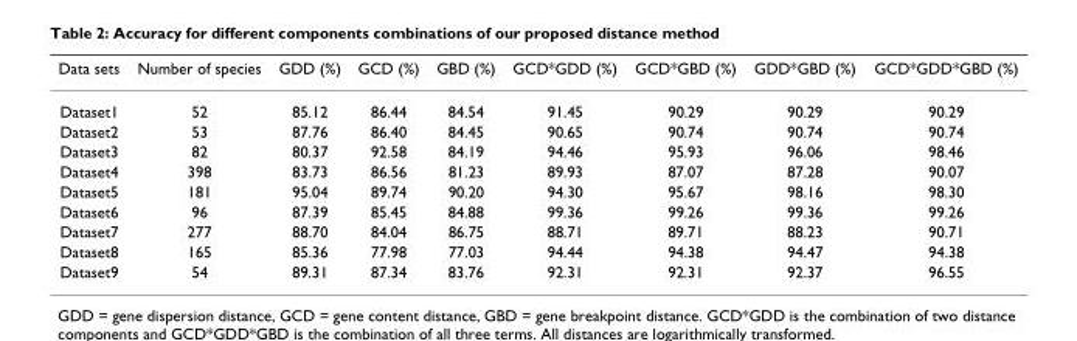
<table><thead><tr><td>Data sets</td><td>Number of species</td><td>GDD (%)</td><td>GCD (%)</td><td>GBD (%)</td><td>GCD*GDD (%)</td><td>GCD*GBD (%)</td><td>GDD*GBD (%)</td><td>GCD*GDD*GBD (%)</td></tr></thead><tbody><tr><td>Dataset1</td><td>52</td><td>85.12</td><td>86.44</td><td>84.54</td><td>91.45</td><td>90.29</td><td>90.29</td><td>90.29</td></tr><tr><td>Dataset2</td><td>53</td><td>87.76</td><td>86.40</td><td>84.45</td><td>90.65</td><td>90.74</td><td>90.74</td><td>90.74</td></tr><tr><td>Dataset3</td><td>82</td><td>80.37</td><td>92.58</td><td>84.19</td><td>94.46</td><td>95.93</td><td>96.06</td><td>98.46</td></tr><tr><td>Dataset4</td><td>398</td><td>83.73</td><td>86.56</td><td>81.23</td><td>89.93</td><td>87.07</td><td>87.28</td><td>90.07</td></tr><tr><td>Dataset5</td><td>181</td><td>95.04</td><td>89.74</td><td>90.20</td><td>94.30</td><td>95.67</td><td>98.16</td><td>98.30</td></tr><tr><td>Dataset6</td><td>96</td><td>87.39</td><td>85.45</td><td>84.88</td><td>99.36</td><td>99.26</td><td>99.36</td><td>99.26</td></tr><tr><td>Dataset7</td><td>277</td><td>88.70</td><td>84.04</td><td>86.75</td><td>88.71</td><td>89.71</td><td>88.23</td><td>90.71</td></tr><tr><td>Dataset8</td><td>165</td><td>85.36</td><td>77.98</td><td>77.03</td><td>94.44</td><td>94.38</td><td>94.47</td><td>94.38</td></tr><tr><td>Dataset9</td><td>54</td><td>89.31</td><td>87.34</td><td>83.76</td><td>92.31</td><td>92.31</td><td>92.37</td><td>96.55</td></tr></tbody></table>